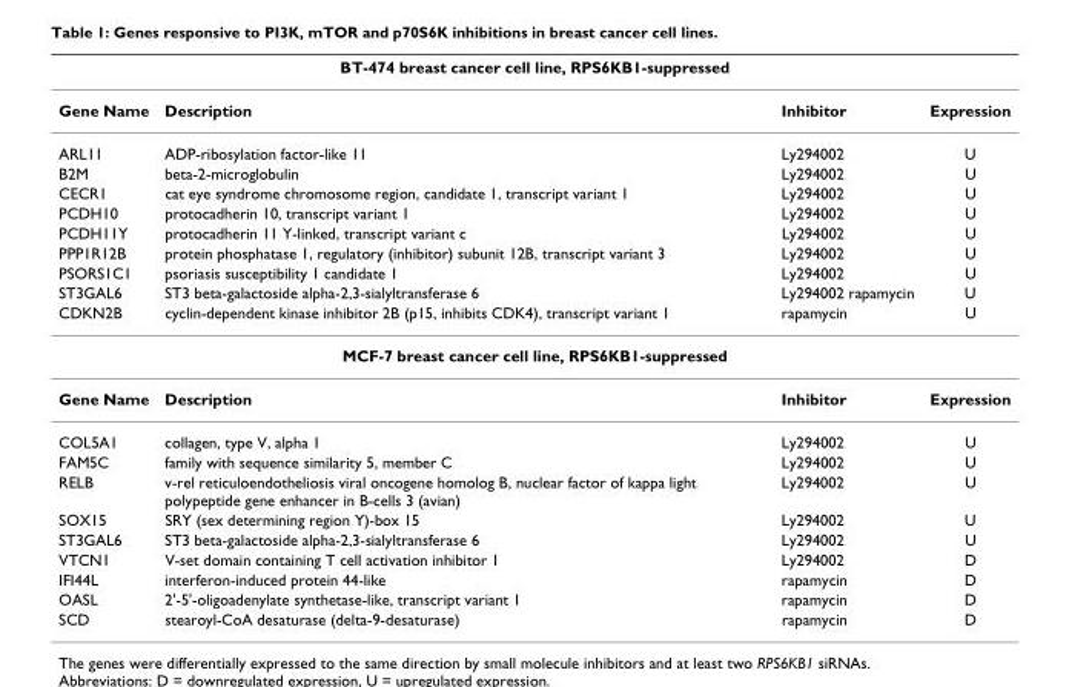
<table><thead><tr><td colspan="4">BT-474 breast cancer cell line, RPS6KB1-suppressed</td></tr><tr><td>Gene Name</td><td>Description</td><td>Inhibitor</td><td>Expression</td></tr></thead><tbody><tr><td>ARL11</td><td>ADP-ribosylation factor-like 11</td><td>Ly294002</td><td>U</td></tr><tr><td>B2M</td><td>beta-2-microglobulin</td><td>Ly294002</td><td>U</td></tr><tr><td>CECR1</td><td>cat eye syndrome chromosome region, candidate 1, transcript variant 1</td><td>Ly294002</td><td>U</td></tr><tr><td>PCDH10</td><td>protocadherin 10, transcript variant 1</td><td>Ly294002</td><td>U</td></tr><tr><td>PCDH11Y</td><td>protocadherin 11 Y-linked, transcript variant c</td><td>Ly294002</td><td>U</td></tr><tr><td>PPP1R12B</td><td>protein phosphatase 1, regulatory (inhibitor) subunit 12B, transcript variant 3</td><td>Ly294002</td><td>U</td></tr><tr><td>PSORS1C1</td><td>psoriasis susceptibility 1 candidate 1</td><td>Ly294002</td><td>U</td></tr><tr><td>ST3GAL6</td><td>ST3 beta-galactoside alpha-2,3-sialyltransferase 6</td><td>Ly294002 rapamycin</td><td>U</td></tr><tr><td>CDKN2B</td><td>cyclin-dependent kinase inhibitor 2B (p15, inhibits CDK4), transcript variant 1</td><td>rapamycin</td><td>U</td></tr><tr><td colspan="4">MCF-7 breast cancer cell line, RPS6KB1-suppressed</td></tr><tr><td>Gene Name</td><td>Description</td><td>Inhibitor</td><td>Expression</td></tr><tr><td>COL5A1</td><td>collagen, type V, alpha 1</td><td>Ly294002</td><td>U</td></tr><tr><td>FAM5C</td><td>family with sequence similarity 5, member C</td><td>Ly294002</td><td>U</td></tr><tr><td>RELB</td><td>v-rel reticuloendotheliosis viral oncogene homolog B, nuclear factor of kappa light polypeptide gene enhancer in B-cells 3 (avian)</td><td>Ly294002</td><td>U</td></tr><tr><td>SOX15</td><td>SRY (sex determining region Y)-box 15</td><td>Ly294002</td><td>U</td></tr><tr><td>ST3GAL6</td><td>ST3 beta-galactoside alpha-2,3-sialyltransferase 6</td><td>Ly294002</td><td>U</td></tr><tr><td>VTCN1</td><td>V-set domain containing T cell activation inhibitor 1</td><td>Ly294002</td><td>D</td></tr><tr><td>IFI44L</td><td>interferon-induced protein 44-like</td><td>rapamycin</td><td>D</td></tr><tr><td>OASL</td><td>2&#x27;-5&#x27;-oligoadenylate synthetase-like, transcript variant 1</td><td>rapamycin</td><td>D</td></tr><tr><td>SCD</td><td>stearoyl-CoA desaturase (delta-9-desaturase)</td><td>rapamycin</td><td>D</td></tr></tbody></table>